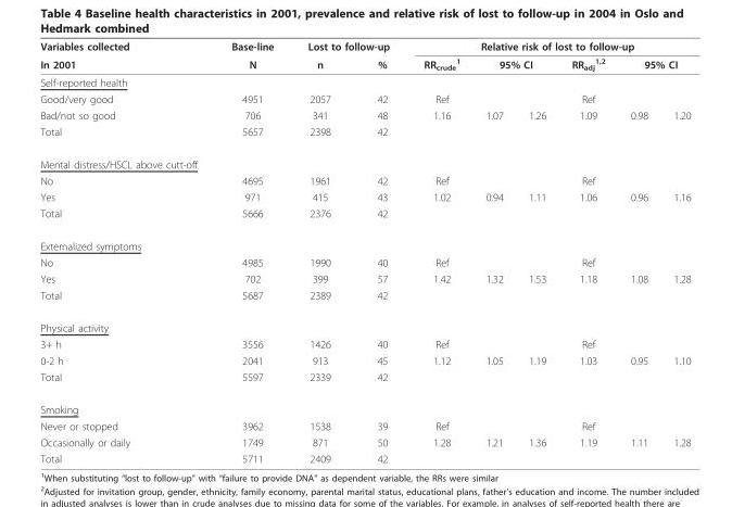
<table><thead><tr><td rowspan="3">Variables collected In 2001 Self-reported health</td><td rowspan="3">Base-line N</td><td colspan="2">Lost to follow-up</td><td colspan="6">Relative risk of lost to follow-up</td></tr><tr><td rowspan="2">n</td><td rowspan="2">%</td><td rowspan="2">RR<sub>crude</sub> <sup>1</sup></td><td colspan="2">95% CI</td><td rowspan="2">RR<sub>adj</sub> <sup>1,2</sup></td><td colspan="2">95% CI</td></tr><tr><td></td><td></td><td></td><td></td></tr></thead><tbody><tr><td>Good/very good</td><td>4951</td><td>2057</td><td>42</td><td>Ref</td><td></td><td></td><td>Ref</td><td></td><td></td></tr><tr><td>Bad/not so good</td><td>706</td><td>341</td><td>48</td><td>1.16</td><td>1.07</td><td>1.26</td><td>1.09</td><td>0.98</td><td>1.20</td></tr><tr><td>Total</td><td>5657</td><td>2398</td><td>42</td><td></td><td></td><td></td><td></td><td></td><td></td></tr><tr><td colspan="10">Mental distress/HSCL above cutt-off</td></tr><tr><td>No</td><td>4695</td><td>1961</td><td>42</td><td>Ref</td><td></td><td></td><td>Ref</td><td></td><td></td></tr><tr><td>Yes</td><td>971</td><td>415</td><td>43</td><td>1.02</td><td>0.94</td><td>1.11</td><td>1.06</td><td>0.96</td><td>1.16</td></tr><tr><td>Total</td><td>5666</td><td>2376</td><td>42</td><td></td><td></td><td></td><td></td><td></td><td></td></tr><tr><td colspan="10">Externalized symptoms</td></tr><tr><td>No</td><td>4985</td><td>1990</td><td>40</td><td>Ref</td><td></td><td></td><td>Ref</td><td></td><td></td></tr><tr><td>Yes</td><td>702</td><td>399</td><td>57</td><td>1.42</td><td>1.32</td><td>1.53</td><td>1.18</td><td>1.08</td><td>1.28</td></tr><tr><td>Total</td><td>5687</td><td>2389</td><td>42</td><td></td><td></td><td></td><td></td><td></td><td></td></tr><tr><td colspan="10">Physical activity</td></tr><tr><td>3+ h</td><td>3556</td><td>1426</td><td>40</td><td>Ref</td><td></td><td></td><td>Ref</td><td></td><td></td></tr><tr><td>0-2 h</td><td>2041</td><td>913</td><td>45</td><td>1.12</td><td>1.05</td><td>1.19</td><td>1.03</td><td>0.95</td><td>1.10</td></tr><tr><td>Total</td><td>5597</td><td>2339</td><td>42</td><td></td><td></td><td></td><td></td><td></td><td></td></tr><tr><td colspan="10">Smoking</td></tr><tr><td>Never or stopped</td><td>3962</td><td>1538</td><td>39</td><td>Ref</td><td></td><td></td><td>Ref</td><td></td><td></td></tr><tr><td>Occasionally or daily</td><td>1749</td><td>871</td><td>50</td><td>1.28</td><td>1.21</td><td>1.36</td><td>1.19</td><td>1.11</td><td>1.28</td></tr><tr><td>Total</td><td>5711</td><td>2409</td><td>42</td><td></td><td></td><td></td><td></td><td></td><td></td></tr></tbody></table>